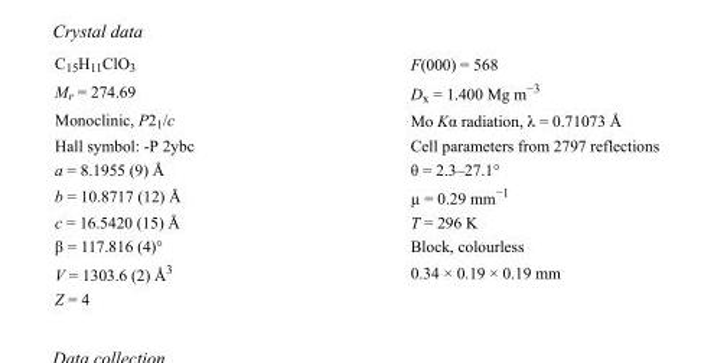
<table><tbody><tr><td>C<sub>15</sub>H<sub>11</sub>ClO<sub>3</sub></td><td>F(000) = 568</td></tr><tr><td>M<sub>r</sub> = 274.69</td><td>D<sub>x</sub> = 1.400 Mg m<sup>−3</sup></td></tr><tr><td>Monoclinic, P2<sub>1</sub>/c</td><td>Mo Kα radiation, λ = 0.71073 Å</td></tr><tr><td>Hall symbol: -P 2ybc</td><td>Cell parameters from 2797 reflections</td></tr><tr><td>a = 8.1955 (9) Å</td><td>θ = 2.3–27.1°</td></tr><tr><td>b = 10.8717 (12) Å</td><td>µ = 0.29 mm<sup>−1</sup></td></tr><tr><td>c = 16.5420 (15) Å</td><td>T = 296 K</td></tr><tr><td>β = 117.816 (4)°</td><td>Block, colourless</td></tr><tr><td>V = 1303.6 (2) Å<sup>3</sup></td><td>0.34 × 0.19 × 0.19 mm</td></tr><tr><td>Z = 4</td><td></td></tr></tbody></table>